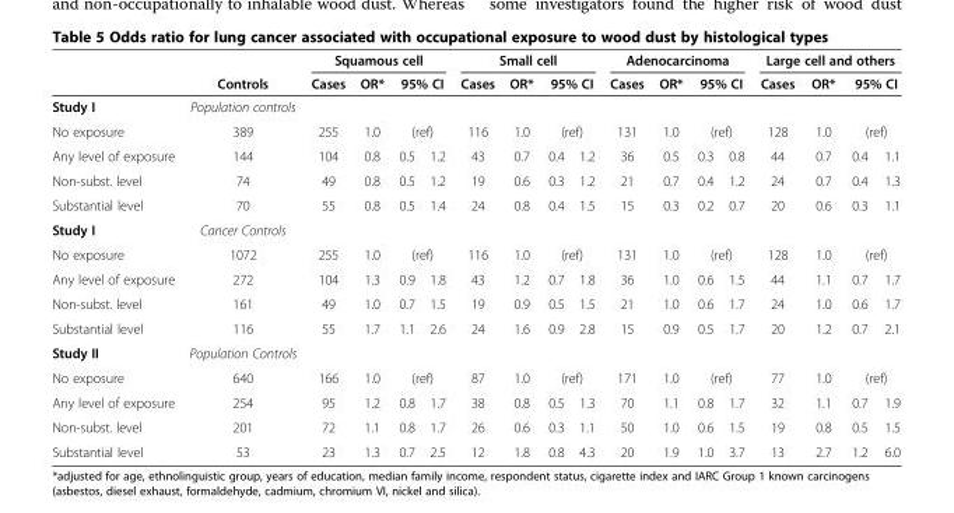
<table><thead><tr><td rowspan="3">Study I</td><td rowspan="3">Controls Population controls</td><td colspan="4">Squamous cell</td><td colspan="4">Small cell</td><td colspan="4">Adenocarcinoma</td><td colspan="4">Large cell and others</td></tr><tr><td rowspan="2">Cases</td><td rowspan="2">OR*</td><td colspan="2">95% CI</td><td rowspan="2">Cases</td><td rowspan="2">OR*</td><td colspan="2">95% CI</td><td rowspan="2">Cases</td><td rowspan="2">OR*</td><td colspan="2">95% CI</td><td rowspan="2">Cases</td><td rowspan="2">OR*</td><td colspan="2">95% CI</td></tr><tr><td></td><td></td><td></td><td></td><td></td><td></td><td></td><td></td></tr></thead><tbody><tr><td>No exposure</td><td>389</td><td>255</td><td>1.0</td><td colspan="2">(ref)</td><td>116</td><td>1.0</td><td colspan="2">(ref)</td><td>131</td><td>1.0</td><td colspan="2">(ref)</td><td>128</td><td>1.0</td><td colspan="2">(ref)</td></tr><tr><td>Any level of exposure</td><td>144</td><td>104</td><td>0.8</td><td>0.5</td><td>1.2</td><td>43</td><td>0.7</td><td>0.4</td><td>1.2</td><td>36</td><td>0.5</td><td>0.3</td><td>0.8</td><td>44</td><td>0.7</td><td>0.4</td><td>1.1</td></tr><tr><td>Non-subst. level</td><td>74</td><td>49</td><td>0.8</td><td>0.5</td><td>1.2</td><td>19</td><td>0.6</td><td>0.3</td><td>1.2</td><td>21</td><td>0.7</td><td>0.4</td><td>1.2</td><td>24</td><td>0.7</td><td>0.4</td><td>1.3</td></tr><tr><td>Substantial level</td><td>70</td><td>55</td><td>0.8</td><td>0.5</td><td>1.4</td><td>24</td><td>0.8</td><td>0.4</td><td>1.5</td><td>15</td><td>0.3</td><td>0.2</td><td>0.7</td><td>20</td><td>0.6</td><td>0.3</td><td>1.1</td></tr><tr><td>Study I</td><td>Cancer Controls</td><td></td><td></td><td colspan="2"></td><td></td><td></td><td colspan="2"></td><td></td><td></td><td colspan="2"></td><td></td><td></td><td colspan="2"></td></tr><tr><td>No exposure</td><td>1072</td><td>255</td><td>1.0</td><td colspan="2">(ref)</td><td>116</td><td>1.0</td><td colspan="2">(ref)</td><td>131</td><td>1.0</td><td colspan="2">(ref)</td><td>128</td><td>1.0</td><td colspan="2">(ref)</td></tr><tr><td>Any level of exposure</td><td>272</td><td>104</td><td>1.3</td><td>0.9</td><td>1.8</td><td>43</td><td>1.2</td><td>0.7</td><td>1.8</td><td>36</td><td>1.0</td><td>0.6</td><td>1.5</td><td>44</td><td>1.1</td><td>0.7</td><td>1.7</td></tr><tr><td>Non-subst. level</td><td>161</td><td>49</td><td>1.0</td><td>0.7</td><td>1.5</td><td>19</td><td>0.9</td><td>0.5</td><td>1.5</td><td>21</td><td>1.0</td><td>0.6</td><td>1.7</td><td>24</td><td>1.0</td><td>0.6</td><td>1.7</td></tr><tr><td>Substantial level</td><td>116</td><td>55</td><td>1.7</td><td>1.1</td><td>2.6</td><td>24</td><td>1.6</td><td>0.9</td><td>2.8</td><td>15</td><td>0.9</td><td>0.5</td><td>1.7</td><td>20</td><td>1.2</td><td>0.7</td><td>2.1</td></tr><tr><td>Study II</td><td>Population Controls</td><td></td><td></td><td colspan="2"></td><td></td><td></td><td colspan="2"></td><td></td><td></td><td colspan="2"></td><td></td><td></td><td colspan="2"></td></tr><tr><td>No exposure</td><td>640</td><td>166</td><td>1.0</td><td colspan="2">(ref)</td><td>87</td><td>1.0</td><td colspan="2">(ref)</td><td>171</td><td>1.0</td><td colspan="2">(ref)</td><td>77</td><td>1.0</td><td colspan="2">(ref)</td></tr><tr><td>Any level of exposure</td><td>254</td><td>95</td><td>1.2</td><td>0.8</td><td>1.7</td><td>38</td><td>0.8</td><td>0.5</td><td>1.3</td><td>70</td><td>1.1</td><td>0.8</td><td>1.7</td><td>32</td><td>1.1</td><td>0.7</td><td>1.9</td></tr><tr><td>Non-subst. level</td><td>201</td><td>72</td><td>1.1</td><td>0.8</td><td>1.7</td><td>26</td><td>0.6</td><td>0.3</td><td>1.1</td><td>50</td><td>1.0</td><td>0.6</td><td>1.5</td><td>19</td><td>0.8</td><td>0.5</td><td>1.5</td></tr><tr><td>Substantial level</td><td>53</td><td>23</td><td>1.3</td><td>0.7</td><td>2.5</td><td>12</td><td>1.8</td><td>0.8</td><td>4.3</td><td>20</td><td>1.9</td><td>1.0</td><td>3.7</td><td>13</td><td>2.7</td><td>1.2</td><td>6.0</td></tr></tbody></table>